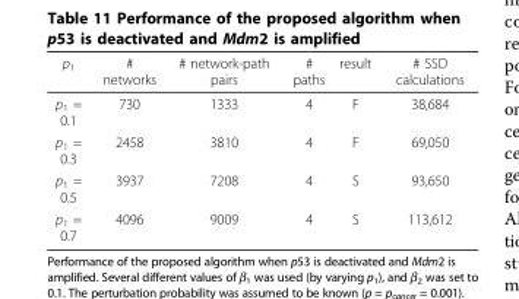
<table><thead><tr><td>p<sub>1</sub></td><td># networks</td><td># network-path pairs</td><td># paths</td><td>result</td><td># SSD calculations</td></tr></thead><tbody><tr><td>p<sub>1</sub> = 0.1</td><td>730</td><td>1333</td><td>4</td><td>F</td><td>38,684</td></tr><tr><td>p<sub>1</sub> = 0.3</td><td>2458</td><td>3810</td><td>4</td><td>F</td><td>69,050</td></tr><tr><td>p<sub>1</sub> = 0.5</td><td>3937</td><td>7208</td><td>4</td><td>S</td><td>93,650</td></tr><tr><td>p<sub>1</sub> = 0.7</td><td>4096</td><td>9009</td><td>4</td><td>S</td><td>113,612</td></tr></tbody></table>